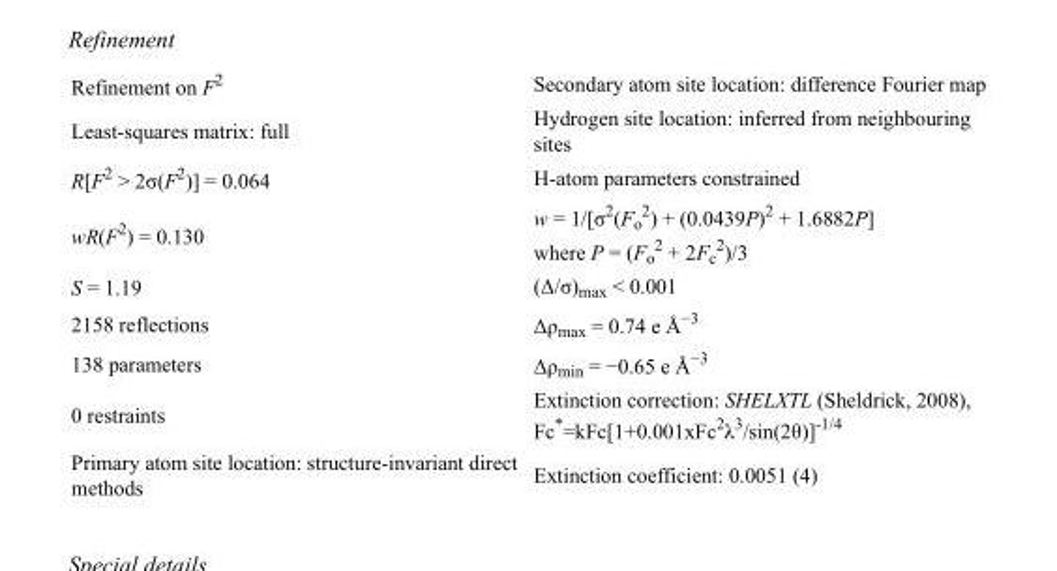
<table><tbody><tr><td>Refinement on F<sup>2</sup></td><td>Secondary atom site location: difference Fourier map</td></tr><tr><td>Least-squares matrix: full</td><td>Hydrogen site location: inferred from neighbouring sites</td></tr><tr><td>R[F<sup>2</sup> &gt; 2σ(F<sup>2</sup>)] = 0.064</td><td>H-atom parameters constrained</td></tr><tr><td>wR(F<sup>2</sup>) = 0.130</td><td>w = 1/[σ<sup>2</sup>(F<sub>o</sub> <sup>2</sup>) + (0.0439P)<sup>2</sup> + 1.6882P] where P = (F<sub>o</sub> <sup>2</sup> + 2F<sub>c</sub> <sup>2</sup>)/3</td></tr><tr><td>S = 1.19</td><td>(Δ/σ)<sub>max</sub> &lt; 0.001</td></tr><tr><td>2158 reflections</td><td>Δρ<sub>max</sub> = 0.74 e Å<sup>−3</sup></td></tr><tr><td>138 parameters</td><td>Δρ<sub>min</sub> = −0.65 e Å<sup>−3</sup></td></tr><tr><td>0 restraints</td><td>Extinction correction: SHELXTL (Sheldrick, 2008), Fc*=kFc[1+0.001xFc<sup>2</sup>λ<sup>3</sup>/sin(2θ)]<sup>-1/4</sup></td></tr><tr><td>Primary atom site location: structure-invariant direct methods</td><td>Extinction coefficient: 0.0051 (4)</td></tr></tbody></table>